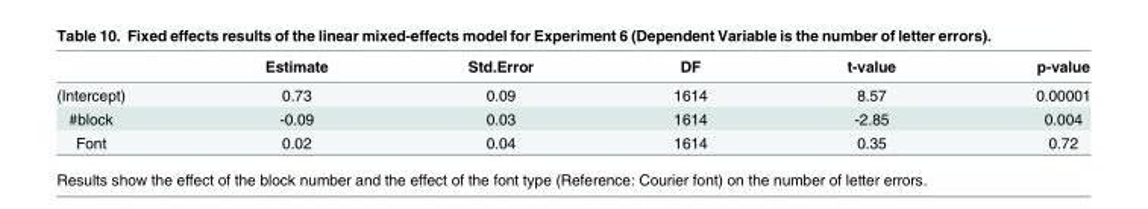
<table><thead><tr><td></td><td>Estimate</td><td>Std.Error</td><td>DF</td><td>t-value</td><td>p-value</td></tr></thead><tbody><tr><td>(Intercept)</td><td>0.73</td><td>0.09</td><td>1614</td><td>8.57</td><td>0.00001</td></tr><tr><td>#block</td><td>-0.09</td><td>0.03</td><td>1614</td><td>-2.85</td><td>0.004</td></tr><tr><td>Font</td><td>0.02</td><td>0.04</td><td>1614</td><td>0.35</td><td>0.72</td></tr></tbody></table>